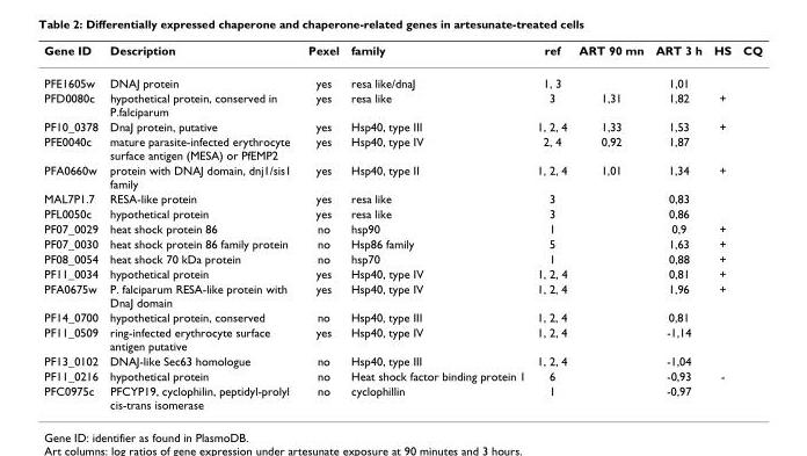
<table><thead><tr><td>Gene ID</td><td>Description</td><td>Pexel</td><td>family</td><td>ref</td><td>ART 90 mn</td><td>ART 3 h</td><td>HS</td><td>CQ</td></tr></thead><tbody><tr><td>PFE1605w</td><td>DNAJ protein</td><td>yes</td><td>resa like/dnaJ</td><td>1, 3</td><td></td><td>1,01</td><td></td><td></td></tr><tr><td>PFD0080c</td><td>hypothetical protein, conserved in P.falciparum</td><td>yes</td><td>resa like</td><td>3</td><td>1,31</td><td>1,82</td><td>+</td><td></td></tr><tr><td>PF10_0378</td><td>DnaJ protein, putative</td><td>yes</td><td>Hsp40, type III</td><td>1, 2, 4</td><td>1,33</td><td>1,53</td><td>+</td><td></td></tr><tr><td>PFE0040c</td><td>mature parasite-infected erythrocyte surface antigen (MESA) or PfEMP2</td><td>yes</td><td>Hsp40, type IV</td><td>2, 4</td><td>0,92</td><td>1,87</td><td></td><td></td></tr><tr><td>PFA0660w</td><td>protein with DNAJ domain, dnj1/sis1 family</td><td>yes</td><td>Hsp40, type II</td><td>1, 2, 4</td><td>1,01</td><td>1,34</td><td>+</td><td></td></tr><tr><td>MAL7P1.7</td><td>RESA-like protein</td><td>yes</td><td>resa like</td><td>3</td><td></td><td>0,83</td><td></td><td></td></tr><tr><td>PFL0050c</td><td>hypothetical protein</td><td>yes</td><td>resa like</td><td>3</td><td></td><td>0,86</td><td></td><td></td></tr><tr><td>PF07_0029</td><td>heat shock protein 86</td><td>no</td><td>hsp90</td><td>1</td><td></td><td>0,9</td><td>+</td><td></td></tr><tr><td>PF07_0030</td><td>heat shock protein 86 family protein</td><td>no</td><td>Hsp86 family</td><td>5</td><td></td><td>1,63</td><td>+</td><td></td></tr><tr><td>PF08_0054</td><td>heat shock 70 kDa protein</td><td>no</td><td>hsp70</td><td>1</td><td></td><td>0,88</td><td>+</td><td></td></tr><tr><td>PF11_0034</td><td>hypothetical protein</td><td>yes</td><td>Hsp40, type IV</td><td>1, 2, 4</td><td></td><td>0,81</td><td>+</td><td></td></tr><tr><td>PFA0675w</td><td>P. falciparum RESA-like protein with DnaJ domain</td><td>yes</td><td>Hsp40, type IV</td><td>1, 2, 4</td><td></td><td>1,96</td><td>+</td><td></td></tr><tr><td>PF14_0700</td><td>hypothetical protein, conserved</td><td>no</td><td>Hsp40, type III</td><td>1, 2, 4</td><td></td><td>0,81</td><td></td><td></td></tr><tr><td>PF11_0509</td><td>ring-infected erythrocyte surface antigen putative</td><td>yes</td><td>Hsp40, type IV</td><td>1, 2, 4</td><td></td><td>-1,14</td><td></td><td></td></tr><tr><td>PF13_0102</td><td>DNAJ-like Sec63 homologue</td><td>no</td><td>Hsp40, type III</td><td>1, 2, 4</td><td></td><td>-1,04</td><td></td><td></td></tr><tr><td>PF11_0216</td><td>hypothetical protein</td><td>no</td><td>Heat shock factor binding protein 1</td><td>6</td><td></td><td>-0,93</td><td>-</td><td></td></tr><tr><td>PFC0975c</td><td>PFCYP19, cyclophilin, peptidyl-prolyl cis-trans isomerase</td><td>no</td><td>cyclophillin</td><td>1</td><td></td><td>-0,97</td><td></td><td></td></tr></tbody></table>